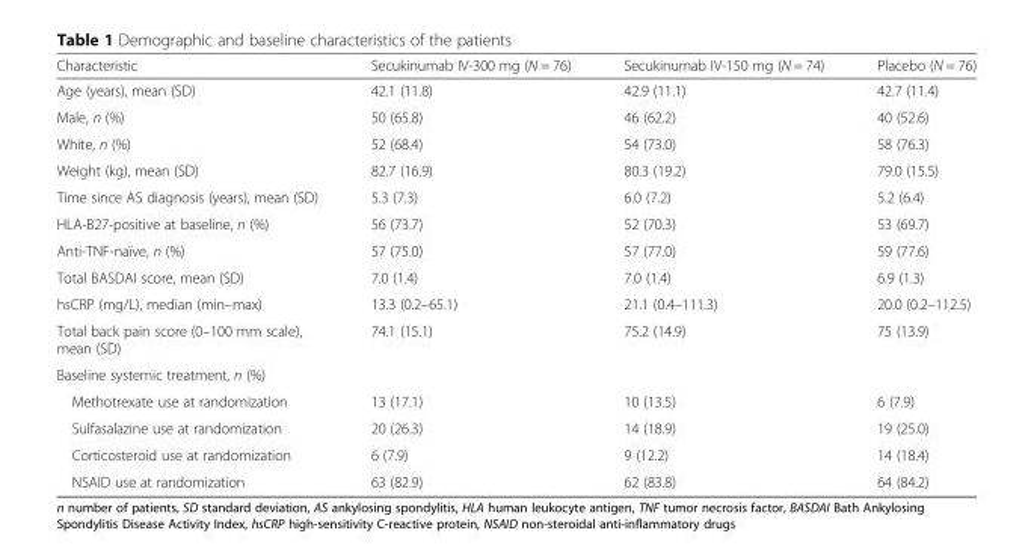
<table><thead><tr><td>Characteristic</td><td>Secukinumab IV-300 mg (N = 76)</td><td>Secukinumab IV-150 mg (N = 74)</td><td>Placebo (N = 76)</td></tr></thead><tbody><tr><td>Age (years), mean (SD)</td><td>42.1 (11.8)</td><td>42.9 (11.1)</td><td>42.7 (11.4)</td></tr><tr><td>Male, n (%)</td><td>50 (65.8)</td><td>46 (62.2)</td><td>40 (52.6)</td></tr><tr><td>White, n (%)</td><td>52 (68.4)</td><td>54 (73.0)</td><td>58 (76.3)</td></tr><tr><td>Weight (kg), mean (SD)</td><td>82.7 (16.9)</td><td>80.3 (19.2)</td><td>79.0 (15.5)</td></tr><tr><td>Time since AS diagnosis (years), mean (SD)</td><td>5.3 (7.3)</td><td>6.0 (7.2)</td><td>5.2 (6.4)</td></tr><tr><td>HLA-B27-positive at baseline, n (%)</td><td>56 (73.7)</td><td>52 (70.3)</td><td>53 (69.7)</td></tr><tr><td>Anti-TNF-naïve, n (%)</td><td>57 (75.0)</td><td>57 (77.0)</td><td>59 (77.6)</td></tr><tr><td>Total BASDAI score, mean (SD)</td><td>7.0 (1.4)</td><td>7.0 (1.4)</td><td>6.9 (1.3)</td></tr><tr><td>hsCRP (mg/L), median (min–max)</td><td>13.3 (0.2–65.1)</td><td>21.1 (0.4–111.3)</td><td>20.0 (0.2–112.5)</td></tr><tr><td>Total back pain score (0–100 mm scale), mean (SD)</td><td>74.1 (15.1)</td><td>75.2 (14.9)</td><td>75 (13.9)</td></tr><tr><td colspan="4">Baseline systemic treatment, n (%)</td></tr><tr><td>Methotrexate use at randomization</td><td>13 (17.1)</td><td>10 (13.5)</td><td>6 (7.9)</td></tr><tr><td>Sulfasalazine use at randomization</td><td>20 (26.3)</td><td>14 (18.9)</td><td>19 (25.0)</td></tr><tr><td>Corticosteroid use at randomization</td><td>6 (7.9)</td><td>9 (12.2)</td><td>14 (18.4)</td></tr><tr><td>NSAID use at randomization</td><td>63 (82.9)</td><td>62 (83.8)</td><td>64 (84.2)</td></tr></tbody></table>